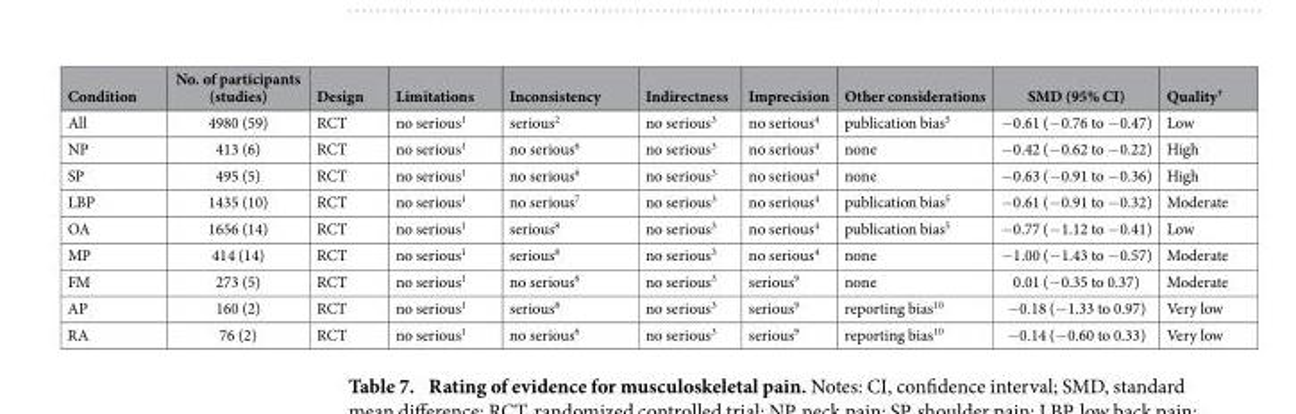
<table><thead><tr><td>Condition</td><td>No. of participants (studies)</td><td>Design</td><td>Limitations</td><td>Inconsistency</td><td>Indirectness</td><td>Imprecision</td><td>Other considerations</td><td>SMD (95% CI)</td><td>Quality†</td></tr></thead><tbody><tr><td>All</td><td>4980 (59)</td><td>RCT</td><td>no serious<sup>1</sup></td><td>serious<sup>2</sup></td><td>no serious<sup>3</sup></td><td>no serious<sup>4</sup></td><td>publication bias<sup>5</sup></td><td>− 0.61 (− 0.76 to − 0.47)</td><td>Low</td></tr><tr><td>NP</td><td>413 (6)</td><td>RCT</td><td>no serious<sup>1</sup></td><td>no serious<sup>6</sup></td><td>no serious<sup>3</sup></td><td>no serious<sup>4</sup></td><td>none</td><td>− 0.42 (− 0.62 to − 0.22)</td><td>High</td></tr><tr><td>SP</td><td>495 (5)</td><td>RCT</td><td>no serious<sup>1</sup></td><td>no serious<sup>6</sup></td><td>no serious<sup>3</sup></td><td>no serious<sup>4</sup></td><td>none</td><td>− 0.63 (− 0.91 to − 0.36)</td><td>High</td></tr><tr><td>LBP</td><td>1435 (10)</td><td>RCT</td><td>no serious<sup>1</sup></td><td>no serious<sup>7</sup></td><td>no serious<sup>3</sup></td><td>no serious<sup>4</sup></td><td>publication bias<sup>5</sup></td><td>− 0.61 (− 0.91 to − 0.32)</td><td>Moderate</td></tr><tr><td>OA</td><td>1656 (14)</td><td>RCT</td><td>no serious<sup>1</sup></td><td>serious<sup>8</sup></td><td>no serious<sup>3</sup></td><td>no serious<sup>4</sup></td><td>publication bias<sup>5</sup></td><td>− 0.77 (− 1.12 to − 0.41)</td><td>Low</td></tr><tr><td>MP</td><td>414 (14)</td><td>RCT</td><td>no serious<sup>1</sup></td><td>serious<sup>8</sup></td><td>no serious<sup>3</sup></td><td>no serious<sup>4</sup></td><td>none</td><td>− 1.00 (− 1.43 to − 0.57)</td><td>Moderate</td></tr><tr><td>FM</td><td>273 (5)</td><td>RCT</td><td>no serious<sup>1</sup></td><td>no serious<sup>6</sup></td><td>no serious<sup>3</sup></td><td>serious<sup>9</sup></td><td>none</td><td>0.01 (− 0.35 to 0.37)</td><td>Moderate</td></tr><tr><td>AP</td><td>160 (2)</td><td>RCT</td><td>no serious<sup>1</sup></td><td>serious<sup>8</sup></td><td>no serious<sup>3</sup></td><td>serious<sup>9</sup></td><td>reporting bias<sup>10</sup></td><td>− 0.18 (− 1.33 to 0.97)</td><td>Very low</td></tr><tr><td>RA</td><td>76 (2)</td><td>RCT</td><td>no serious<sup>1</sup></td><td>no serious<sup>6</sup></td><td>no serious<sup>3</sup></td><td>serious<sup>9</sup></td><td>reporting bias<sup>10</sup></td><td>− 0.14 (− 0.60 to 0.33)</td><td>Very low</td></tr></tbody></table>